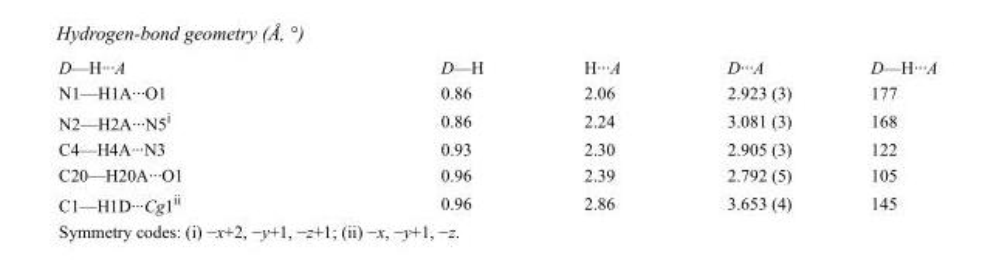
<table><tbody><tr><td>D—H···A</td><td>D—H</td><td>H···A</td><td>D···A</td><td>D—H···A</td></tr><tr><td>N1—H1A···O1</td><td>0.86</td><td>2.06</td><td>2.923 (3)</td><td>177</td></tr><tr><td>N2—H2A···N5<sup>i</sup></td><td>0.86</td><td>2.24</td><td>3.081 (3)</td><td>168</td></tr><tr><td>C4—H4A···N3</td><td>0.93</td><td>2.30</td><td>2.905 (3)</td><td>122</td></tr><tr><td>C20—H20A···O1</td><td>0.96</td><td>2.39</td><td>2.792 (5)</td><td>105</td></tr><tr><td>C1—H1D···Cg1<sup>ii</sup></td><td>0.96</td><td>2.86</td><td>3.653 (4)</td><td>145</td></tr></tbody></table>